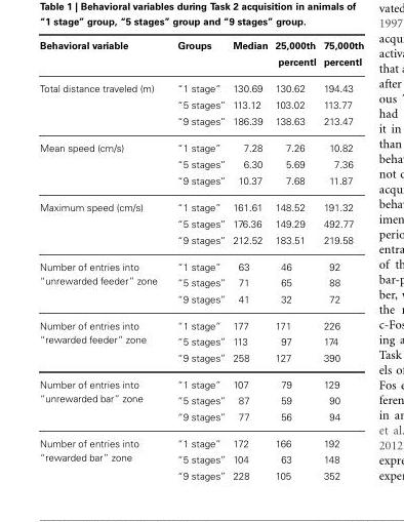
<table><thead><tr><td>Behavioral variable</td><td>Groups</td><td>Median</td><td>25,000th percentl</td><td>75,000th percentl</td></tr></thead><tbody><tr><td rowspan="3">Total distance traveled (m)</td><td>“1 stage”</td><td>130.69</td><td>130.62</td><td>194.43</td></tr><tr><td>“5 stages”</td><td>113.12</td><td>103.02</td><td>113.77</td></tr><tr><td>“9 stages”</td><td>186.39</td><td>138.63</td><td>213.47</td></tr><tr><td rowspan="3">Mean speed (cm/s)</td><td>“1 stage”</td><td>7.28</td><td>7.26</td><td>10.82</td></tr><tr><td>“5 stages”</td><td>6.30</td><td>5.69</td><td>7.36</td></tr><tr><td>“9 stages”</td><td>10.37</td><td>7.68</td><td>11.87</td></tr><tr><td rowspan="3">Maximum speed (cm/s)</td><td>“1 stage”</td><td>161.61</td><td>148.52</td><td>191.32</td></tr><tr><td>“5 stages”</td><td>176.36</td><td>149.29</td><td>492.77</td></tr><tr><td>“9 stages”</td><td>212.52</td><td>183.51</td><td>219.58</td></tr><tr><td rowspan="3">Number of entries into “unrewarded feeder” zone</td><td>“1 stage”</td><td>63</td><td>46</td><td>92</td></tr><tr><td>“5 stages”</td><td>71</td><td>65</td><td>88</td></tr><tr><td>“9 stages”</td><td>41</td><td>32</td><td>72</td></tr><tr><td rowspan="3">Number of entries into “rewarded feeder” zone</td><td>“1 stage”</td><td>177</td><td>171</td><td>226</td></tr><tr><td>“5 stages”</td><td>113</td><td>97</td><td>174</td></tr><tr><td>“9 stages”</td><td>258</td><td>127</td><td>390</td></tr><tr><td rowspan="3">Number of entries into “unrewarded bar” zone</td><td>“1 stage”</td><td>107</td><td>79</td><td>129</td></tr><tr><td>“5 stages”</td><td>87</td><td>59</td><td>90</td></tr><tr><td>“9 stages”</td><td>77</td><td>56</td><td>94</td></tr><tr><td rowspan="3">Number of entries into “rewarded bar” zone</td><td>“1 stage”</td><td>172</td><td>166</td><td>192</td></tr><tr><td>“5 stages”</td><td>104</td><td>63</td><td>148</td></tr><tr><td>“9 stages”</td><td>228</td><td>105</td><td>352</td></tr></tbody></table>